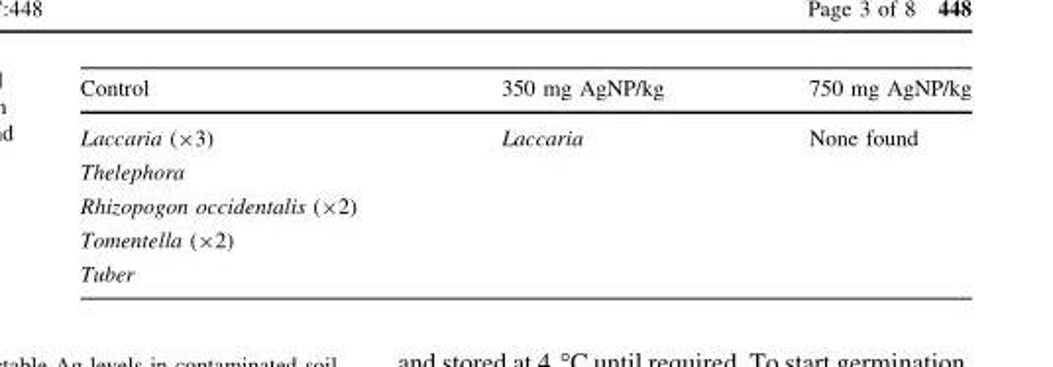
<table><thead><tr><td>Control</td><td>350 mg AgNP/kg</td><td>750 mg AgNP/kg</td></tr></thead><tbody><tr><td>Laccaria (×3)</td><td>Laccaria</td><td>None found</td></tr><tr><td colspan="3">Thelephora</td></tr><tr><td colspan="3">Rhizopogon occidentalis (×2)</td></tr><tr><td colspan="3">Tomentella (×2)</td></tr><tr><td>Tuber</td><td></td><td></td></tr></tbody></table>